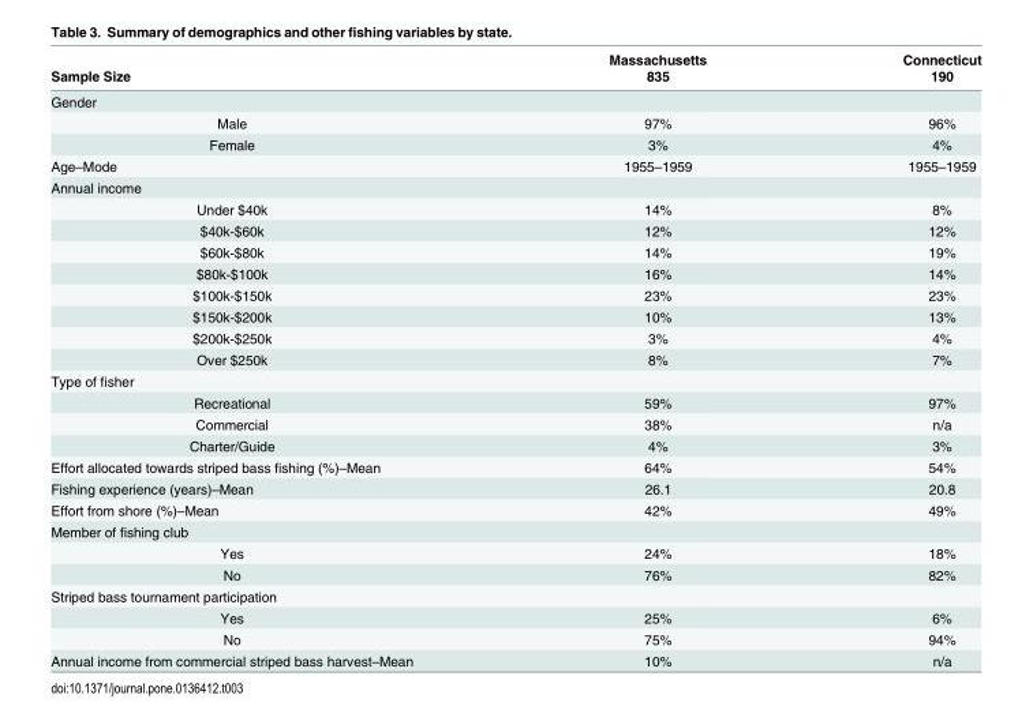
<table><thead><tr><td rowspan="2">Sample Size</td><td rowspan="2">Massachusetts 835</td><td rowspan="2">Connecticut 190</td></tr><tr></tr></thead><tbody><tr><td colspan="3">Gender</td></tr><tr><td>Male</td><td>97%</td><td>96%</td></tr><tr><td>Female</td><td>3%</td><td>4%</td></tr><tr><td>Age–Mode</td><td>1955–1959</td><td>1955–1959</td></tr><tr><td colspan="3">Annual income</td></tr><tr><td>Under $40k</td><td>14%</td><td>8%</td></tr><tr><td>$40k-$60k</td><td>12%</td><td>12%</td></tr><tr><td>$60k-$80k</td><td>14%</td><td>19%</td></tr><tr><td>$80k-$100k</td><td>16%</td><td>14%</td></tr><tr><td>$100k-$150k</td><td>23%</td><td>23%</td></tr><tr><td>$150k-$200k</td><td>10%</td><td>13%</td></tr><tr><td>$200k-$250k</td><td>3%</td><td>4%</td></tr><tr><td>Over $250k</td><td>8%</td><td>7%</td></tr><tr><td colspan="3">Type of fisher</td></tr><tr><td>Recreational</td><td>59%</td><td>97%</td></tr><tr><td>Commercial</td><td>38%</td><td>n/a</td></tr><tr><td>Charter/Guide</td><td>4%</td><td>3%</td></tr><tr><td>Effort allocated towards striped bass fishing (%)–Mean</td><td>64%</td><td>54%</td></tr><tr><td>Fishing experience (years)–Mean</td><td>26.1</td><td>20.8</td></tr><tr><td>Effort from shore (%)–Mean</td><td>42%</td><td>49%</td></tr><tr><td colspan="3">Member of fishing club</td></tr><tr><td>Yes</td><td>24%</td><td>18%</td></tr><tr><td>No</td><td>76%</td><td>82%</td></tr><tr><td colspan="3">Striped bass tournament participation</td></tr><tr><td>Yes</td><td>25%</td><td>6%</td></tr><tr><td>No</td><td>75%</td><td>94%</td></tr><tr><td>Annual income from commercial striped bass harvest–Mean</td><td>10%</td><td>n/a</td></tr></tbody></table>